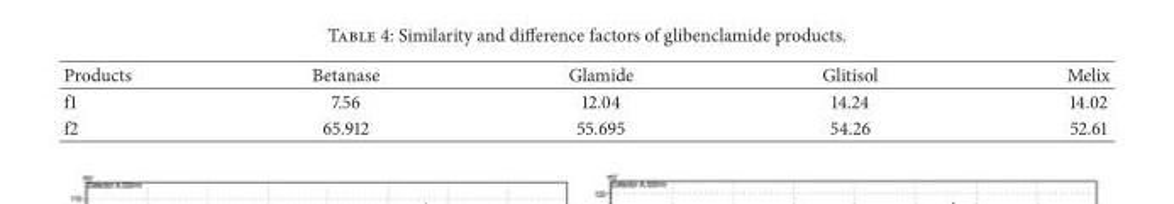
<table><thead><tr><td>Products</td><td>Betanase</td><td>Glamide</td><td>Glitisol</td><td>Melix</td></tr></thead><tbody><tr><td>f1</td><td>7.56</td><td>12.04</td><td>14.24</td><td>14.02</td></tr><tr><td>f2</td><td>65.912</td><td>55.695</td><td>54.26</td><td>52.61</td></tr></tbody></table>